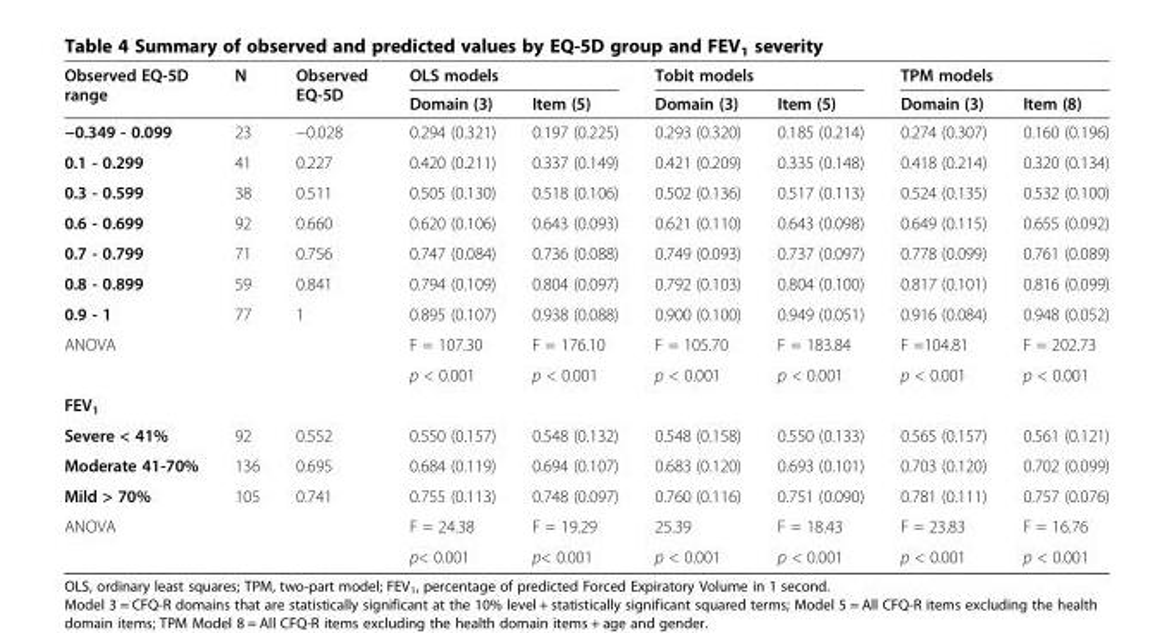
<table><thead><tr><td rowspan="2">Observed EQ-5D range</td><td rowspan="2">N</td><td rowspan="2">Observed EQ-5D</td><td colspan="2">OLS models</td><td colspan="2">Tobit models</td><td colspan="2">TPM models</td></tr><tr><td>Domain (3)</td><td>Item (5)</td><td>Domain (3)</td><td>Item (5)</td><td>Domain (3)</td><td>Item (8)</td></tr></thead><tbody><tr><td>−0.349 - 0.099</td><td>23</td><td>−0.028</td><td>0.294 (0.321)</td><td>0.197 (0.225)</td><td>0.293 (0.320)</td><td>0.185 (0.214)</td><td>0.274 (0.307)</td><td>0.160 (0.196)</td></tr><tr><td>0.1 - 0.299</td><td>41</td><td>0.227</td><td>0.420 (0.211)</td><td>0.337 (0.149)</td><td>0.421 (0.209)</td><td>0.335 (0.148)</td><td>0.418 (0.214)</td><td>0.320 (0.134)</td></tr><tr><td>0.3 - 0.599</td><td>38</td><td>0.511</td><td>0.505 (0.130)</td><td>0.518 (0.106)</td><td>0.502 (0.136)</td><td>0.517 (0.113)</td><td>0.524 (0.135)</td><td>0.532 (0.100)</td></tr><tr><td>0.6 - 0.699</td><td>92</td><td>0.660</td><td>0.620 (0.106)</td><td>0.643 (0.093)</td><td>0.621 (0.110)</td><td>0.643 (0.098)</td><td>0.649 (0.115)</td><td>0.655 (0.092)</td></tr><tr><td>0.7 - 0.799</td><td>71</td><td>0.756</td><td>0.747 (0.084)</td><td>0.736 (0.088)</td><td>0.749 (0.093)</td><td>0.737 (0.097)</td><td>0.778 (0.099)</td><td>0.761 (0.089)</td></tr><tr><td>0.8 - 0.899</td><td>59</td><td>0.841</td><td>0.794 (0.109)</td><td>0.804 (0.097)</td><td>0.792 (0.103)</td><td>0.804 (0.100)</td><td>0.817 (0.101)</td><td>0.816 (0.099)</td></tr><tr><td>0.9 - 1</td><td>77</td><td>1</td><td>0.895 (0.107)</td><td>0.938 (0.088)</td><td>0.900 (0.100)</td><td>0.949 (0.051)</td><td>0.916 (0.084)</td><td>0.948 (0.052)</td></tr><tr><td rowspan="2">ANOVA</td><td rowspan="2"></td><td rowspan="2"></td><td>F = 107.30</td><td>F = 176.10</td><td>F = 105.70</td><td>F = 183.84</td><td>F =104.81</td><td>F = 202.73</td></tr><tr><td>p &lt; 0.001</td><td>p &lt; 0.001</td><td>p &lt; 0.001</td><td>p &lt; 0.001</td><td>p &lt; 0.001</td><td>p &lt; 0.001</td></tr><tr><td colspan="9">FEV<sub>1</sub></td></tr><tr><td>Severe &lt; 41%</td><td>92</td><td>0.552</td><td>0.550 (0.157)</td><td>0.548 (0.132)</td><td>0.548 (0.158)</td><td>0.550 (0.133)</td><td>0.565 (0.157)</td><td>0.561 (0.121)</td></tr><tr><td>Moderate 41-70%</td><td>136</td><td>0.695</td><td>0.684 (0.119)</td><td>0.694 (0.107)</td><td>0.683 (0.120)</td><td>0.693 (0.101)</td><td>0.703 (0.120)</td><td>0.702 (0.099)</td></tr><tr><td>Mild &gt; 70%</td><td>105</td><td>0.741</td><td>0.755 (0.113)</td><td>0.748 (0.097)</td><td>0.760 (0.116)</td><td>0.751 (0.090)</td><td>0.781 (0.111)</td><td>0.757 (0.076)</td></tr><tr><td rowspan="2">ANOVA</td><td rowspan="2"></td><td rowspan="2"></td><td>F = 24.38</td><td>F = 19.29</td><td>25.39</td><td>F = 18.43</td><td>F = 23.83</td><td>F = 16.76</td></tr><tr><td>p&lt; 0.001</td><td>p&lt; 0.001</td><td>p &lt; 0.001</td><td>p &lt; 0.001</td><td>p &lt; 0.001</td><td>p &lt; 0.001</td></tr></tbody></table>